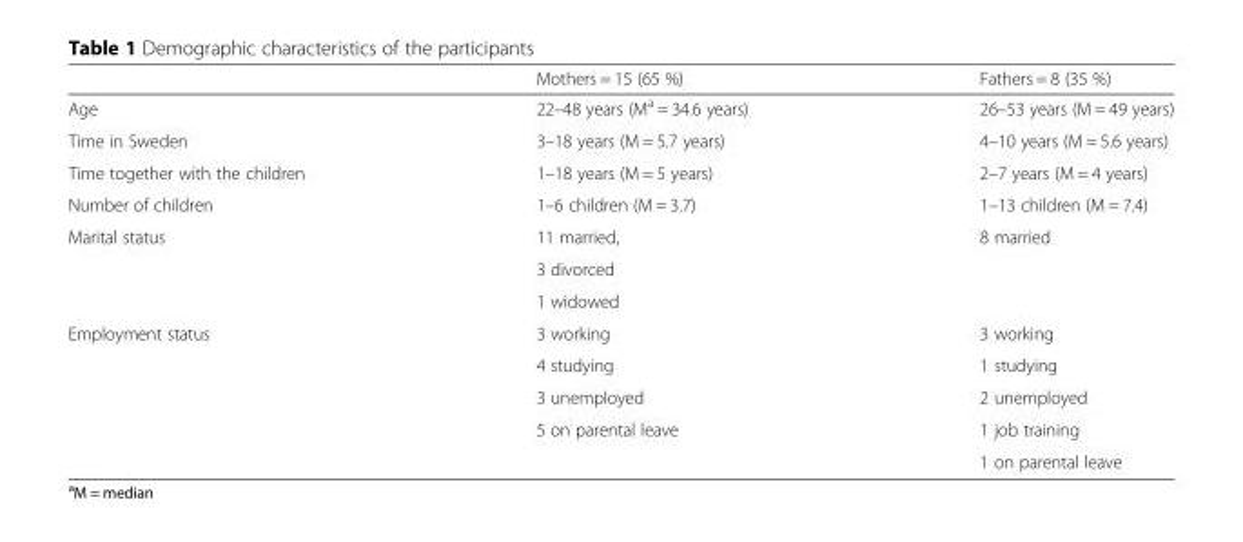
<table><thead><tr><td></td><td>Mothers = 15 (65 %)</td><td>Fathers = 8 (35 %)</td></tr></thead><tbody><tr><td>Age</td><td>22–48 years (M<sup>a</sup> = 34.6 years)</td><td>26–53 years (M = 49 years)</td></tr><tr><td>Time in Sweden</td><td>3–18 years (M = 5.7 years)</td><td>4–10 years (M = 5.6 years)</td></tr><tr><td>Time together with the children</td><td>1–18 years (M = 5 years)</td><td>2–7 years (M = 4 years)</td></tr><tr><td>Number of children</td><td>1–6 children (M = 3.7)</td><td>1–13 children (M = 7.4)</td></tr><tr><td rowspan="3">Marital status</td><td>11 married,</td><td rowspan="3">8 married</td></tr><tr><td>3 divorced</td></tr><tr><td>1 widowed</td></tr><tr><td rowspan="5">Employment status</td><td>3 working</td><td>3 working</td></tr><tr><td>4 studying</td><td>1 studying</td></tr><tr><td>3 unemployed</td><td>2 unemployed</td></tr><tr><td rowspan="2">5 on parental leave</td><td>1 job training</td></tr><tr><td>1 on parental leave</td></tr></tbody></table>